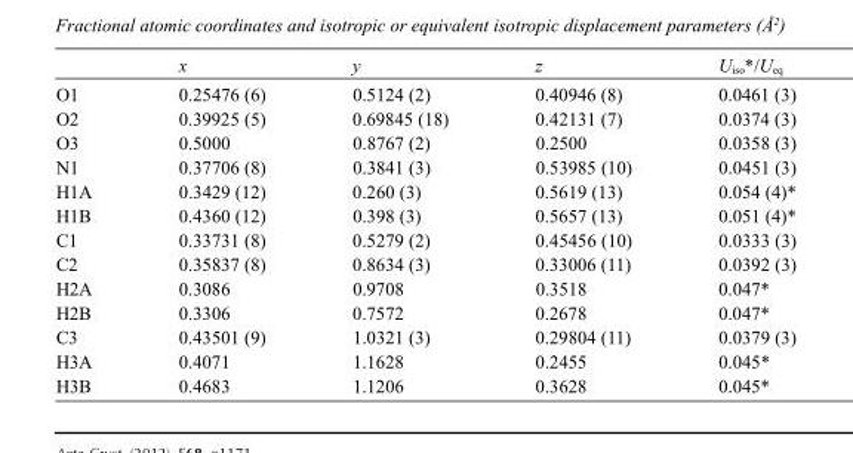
<table><thead><tr><td></td><td>x</td><td>y</td><td>z</td><td>U<sub>iso</sub>*/U<sub>eq</sub></td></tr></thead><tbody><tr><td>O1</td><td>0.25476 (6)</td><td>0.5124 (2)</td><td>0.40946 (8)</td><td>0.0461 (3)</td></tr><tr><td>O2</td><td>0.39925 (5)</td><td>0.69845 (18)</td><td>0.42131 (7)</td><td>0.0374 (3)</td></tr><tr><td>O3</td><td>0.5000</td><td>0.8767 (2)</td><td>0.2500</td><td>0.0358 (3)</td></tr><tr><td>N1</td><td>0.37706 (8)</td><td>0.3841 (3)</td><td>0.53985 (10)</td><td>0.0451 (3)</td></tr><tr><td>H1A</td><td>0.3429 (12)</td><td>0.260 (3)</td><td>0.5619 (13)</td><td>0.054 (4)*</td></tr><tr><td>H1B</td><td>0.4360 (12)</td><td>0.398 (3)</td><td>0.5657 (13)</td><td>0.051 (4)*</td></tr><tr><td>C1</td><td>0.33731 (8)</td><td>0.5279 (2)</td><td>0.45456 (10)</td><td>0.0333 (3)</td></tr><tr><td>C2</td><td>0.35837 (8)</td><td>0.8634 (3)</td><td>0.33006 (11)</td><td>0.0392 (3)</td></tr><tr><td>H2A</td><td>0.3086</td><td>0.9708</td><td>0.3518</td><td>0.047*</td></tr><tr><td>H2B</td><td>0.3306</td><td>0.7572</td><td>0.2678</td><td>0.047*</td></tr><tr><td>C3</td><td>0.43501 (9)</td><td>1.0321 (3)</td><td>0.29804 (11)</td><td>0.0379 (3)</td></tr><tr><td>H3A</td><td>0.4071</td><td>1.1628</td><td>0.2455</td><td>0.045*</td></tr><tr><td>H3B</td><td>0.4683</td><td>1.1206</td><td>0.3628</td><td>0.045*</td></tr></tbody></table>